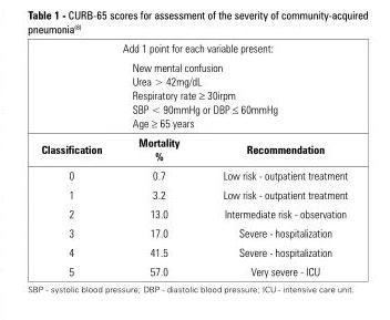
<table><tbody><tr><td colspan="3">Add 1 point for each variable present:</td></tr><tr><td colspan="3">New mental confusion Urea &gt; 42mg/dL Respiratory rate ≥ 30irpm SBP &lt; 90mmHg or DBP ≤ 60mmHg Age ≥ 65 years</td></tr><tr><td>Classification</td><td>Mortality %</td><td>Recommendation</td></tr><tr><td>0</td><td>0.7</td><td>Low risk - outpatient treatment</td></tr><tr><td>1</td><td>3.2</td><td>Low risk - outpatient treatment</td></tr><tr><td>2</td><td>13.0</td><td>Intermediate risk - observation</td></tr><tr><td>3</td><td>17.0</td><td>Severe - hospitalization</td></tr><tr><td>4</td><td>41.5</td><td>Severe - hospitalization</td></tr><tr><td>5</td><td>57.0</td><td>Very severe - ICU</td></tr></tbody></table>